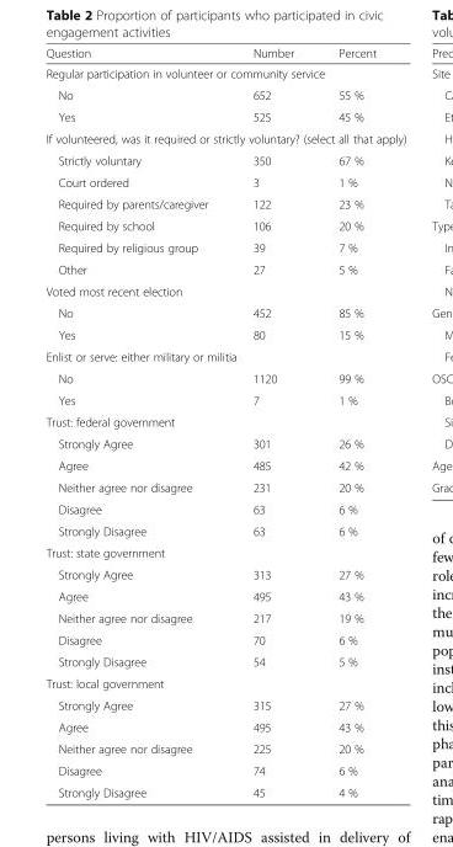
<table><thead><tr><td>Question</td><td>Number</td><td>Percent</td></tr></thead><tbody><tr><td colspan="3">Regular participation in volunteer or community service</td></tr><tr><td>No</td><td>652</td><td>55 %</td></tr><tr><td>Yes</td><td>525</td><td>45 %</td></tr><tr><td colspan="3">If volunteered, was it required or strictly voluntary? (select all that apply)</td></tr><tr><td>Strictly voluntary</td><td>350</td><td>67 %</td></tr><tr><td>Court ordered</td><td>3</td><td>1 %</td></tr><tr><td>Required by parents/caregiver</td><td>122</td><td>23 %</td></tr><tr><td>Required by school</td><td>106</td><td>20 %</td></tr><tr><td>Required by religious group</td><td>39</td><td>7 %</td></tr><tr><td>Other</td><td>27</td><td>5 %</td></tr><tr><td colspan="3">Voted most recent election</td></tr><tr><td>No</td><td>452</td><td>85 %</td></tr><tr><td>Yes</td><td>80</td><td>15 %</td></tr><tr><td colspan="3">Enlist or serve: either military or militia</td></tr><tr><td>No</td><td>1120</td><td>99 %</td></tr><tr><td>Yes</td><td>7</td><td>1 %</td></tr><tr><td colspan="3">Trust: federal government</td></tr><tr><td>Strongly Agree</td><td>301</td><td>26 %</td></tr><tr><td>Agree</td><td>485</td><td>42 %</td></tr><tr><td>Neither agree nor disagree</td><td>231</td><td>20 %</td></tr><tr><td>Disagree</td><td>63</td><td>6 %</td></tr><tr><td>Strongly Disagree</td><td>63</td><td>6 %</td></tr><tr><td colspan="3">Trust: state government</td></tr><tr><td>Strongly Agree</td><td>313</td><td>27 %</td></tr><tr><td>Agree</td><td>495</td><td>43 %</td></tr><tr><td>Neither agree nor disagree</td><td>217</td><td>19 %</td></tr><tr><td>Disagree</td><td>70</td><td>6 %</td></tr><tr><td>Strongly Disagree</td><td>54</td><td>5 %</td></tr><tr><td colspan="3">Trust: local government</td></tr><tr><td>Strongly Agree</td><td>315</td><td>27 %</td></tr><tr><td>Agree</td><td>495</td><td>43 %</td></tr><tr><td>Neither agree nor disagree</td><td>225</td><td>20 %</td></tr><tr><td>Disagree</td><td>74</td><td>6 %</td></tr><tr><td>Strongly Disagree</td><td>45</td><td>4 %</td></tr></tbody></table>